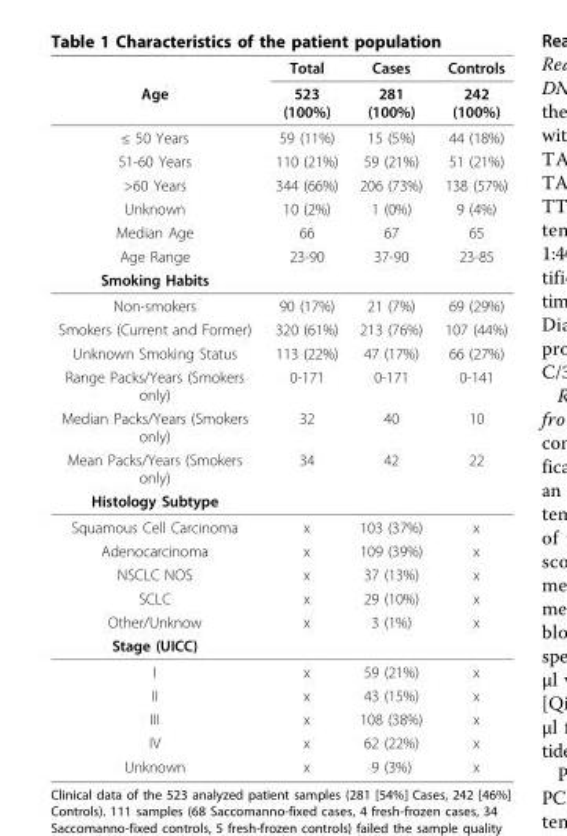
<table><thead><tr><td rowspan="2">Age</td><td rowspan="2">Total 523 (100%)</td><td rowspan="2">Cases 281 (100%)</td><td rowspan="2">Controls 242 (100%)</td></tr><tr></tr></thead><tbody><tr><td>≤ 50 Years</td><td>59 (11%)</td><td>15 (5%)</td><td>44 (18%)</td></tr><tr><td>51-60 Years</td><td>110 (21%)</td><td>59 (21%)</td><td>51 (21%)</td></tr><tr><td>&gt;60 Years</td><td>344 (66%)</td><td>206 (73%)</td><td>138 (57%)</td></tr><tr><td>Unknown</td><td>10 (2%)</td><td>1 (0%)</td><td>9 (4%)</td></tr><tr><td>Median Age</td><td>66</td><td>67</td><td>65</td></tr><tr><td>Age Range</td><td>23-90</td><td>37-90</td><td>23-85</td></tr><tr><td colspan="4">Smoking Habits</td></tr><tr><td>Non-smokers</td><td>90 (17%)</td><td>21 (7%)</td><td>69 (29%)</td></tr><tr><td>Smokers (Current and Former)</td><td>320 (61%)</td><td>213 (76%)</td><td>107 (44%)</td></tr><tr><td>Unknown Smoking Status</td><td>113 (22%)</td><td>47 (17%)</td><td>66 (27%)</td></tr><tr><td>Range Packs/Years (Smokers only)</td><td>0-171</td><td>0-171</td><td>0-141</td></tr><tr><td>Median Packs/Years (Smokers only)</td><td>32</td><td>40</td><td>10</td></tr><tr><td>Mean Packs/Years (Smokers only)</td><td>34</td><td>42</td><td>22</td></tr><tr><td colspan="4">Histology Subtype</td></tr><tr><td>Squamous Cell Carcinoma</td><td>x</td><td>103 (37%)</td><td>x</td></tr><tr><td>Adenocarcinoma</td><td>x</td><td>109 (39%)</td><td>x</td></tr><tr><td>NSCLC NOS</td><td>x</td><td>37 (13%)</td><td>x</td></tr><tr><td>SCLC</td><td>x</td><td>29 (10%)</td><td>x</td></tr><tr><td>Other/Unknow</td><td>x</td><td>3 (1%)</td><td>x</td></tr><tr><td colspan="4">Stage (UICC)</td></tr><tr><td>I</td><td>x</td><td>59 (21%)</td><td>x</td></tr><tr><td>II</td><td>x</td><td>43 (15%)</td><td>x</td></tr><tr><td>III</td><td>x</td><td>108 (38%)</td><td>x</td></tr><tr><td>IV</td><td>x</td><td>62 (22%)</td><td>x</td></tr><tr><td>Unknown</td><td>x</td><td>9 (3%)</td><td>x</td></tr></tbody></table>